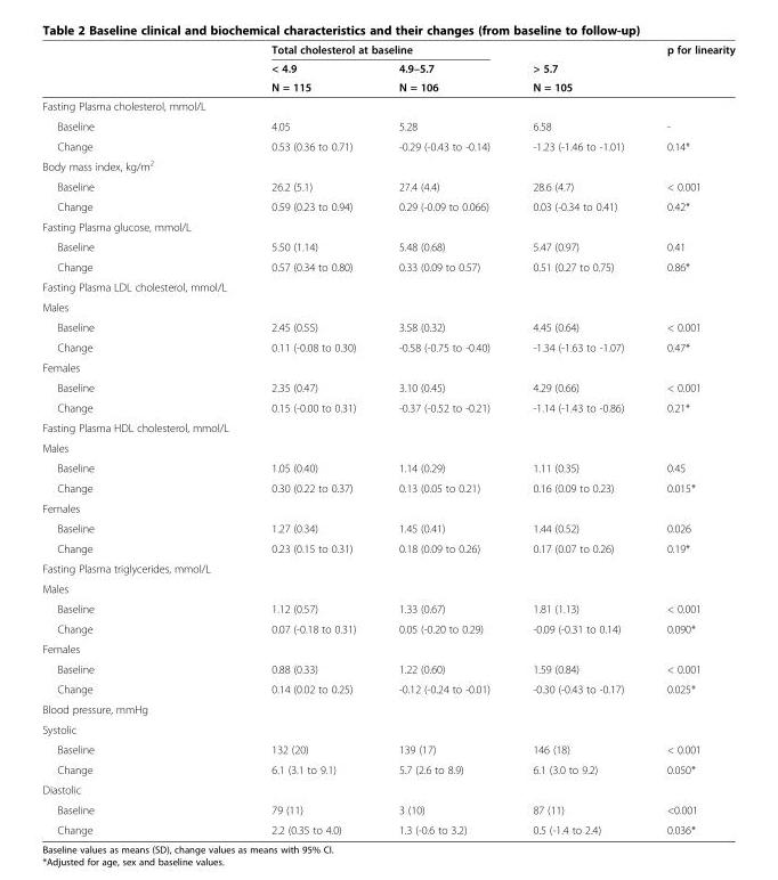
<table><thead><tr><td rowspan="3"></td><td colspan="2">Total cholesterol at baseline</td><td rowspan="3">&gt; 5.7 N = 105</td><td rowspan="3">p for linearity</td></tr><tr><td rowspan="2">&lt; 4.9 N = 115</td><td rowspan="2">4.9–5.7 N = 106</td></tr><tr></tr></thead><tbody><tr><td colspan="5">Fasting Plasma cholesterol, mmol/L</td></tr><tr><td>Baseline</td><td>4.05</td><td>5.28</td><td>6.58</td><td>-</td></tr><tr><td>Change</td><td>0.53 (0.36 to 0.71)</td><td>-0.29 (-0.43 to -0.14)</td><td>-1.23 (-1.46 to -1.01)</td><td>0.14*</td></tr><tr><td colspan="5">Body mass index, kg/m<sup>2</sup></td></tr><tr><td>Baseline</td><td>26.2 (5.1)</td><td>27.4 (4.4)</td><td>28.6 (4.7)</td><td>&lt; 0.001</td></tr><tr><td>Change</td><td>0.59 (0.23 to 0.94)</td><td>0.29 (-0.09 to 0.066)</td><td>0.03 (-0.34 to 0.41)</td><td>0.42*</td></tr><tr><td colspan="5">Fasting Plasma glucose, mmol/L</td></tr><tr><td>Baseline</td><td>5.50 (1.14)</td><td>5.48 (0.68)</td><td>5.47 (0.97)</td><td>0.41</td></tr><tr><td>Change</td><td>0.57 (0.34 to 0.80)</td><td>0.33 (0.09 to 0.57)</td><td>0.51 (0.27 to 0.75)</td><td>0.86*</td></tr><tr><td colspan="5">Fasting Plasma LDL cholesterol, mmol/L</td></tr><tr><td colspan="5">Males</td></tr><tr><td>Baseline</td><td>2.45 (0.55)</td><td>3.58 (0.32)</td><td>4.45 (0.64)</td><td>&lt; 0.001</td></tr><tr><td>Change</td><td>0.11 (-0.08 to 0.30)</td><td>-0.58 (-0.75 to -0.40)</td><td>-1.34 (-1.63 to -1.07)</td><td>0.47*</td></tr><tr><td colspan="5">Females</td></tr><tr><td>Baseline</td><td>2.35 (0.47)</td><td>3.10 (0.45)</td><td>4.29 (0.66)</td><td>&lt; 0.001</td></tr><tr><td>Change</td><td>0.15 (-0.00 to 0.31)</td><td>-0.37 (-0.52 to -0.21)</td><td>-1.14 (-1.43 to -0.86)</td><td>0.21*</td></tr><tr><td colspan="5">Fasting Plasma HDL cholesterol, mmol/L</td></tr><tr><td colspan="5">Males</td></tr><tr><td>Baseline</td><td>1.05 (0.40)</td><td>1.14 (0.29)</td><td>1.11 (0.35)</td><td>0.45</td></tr><tr><td>Change</td><td>0.30 (0.22 to 0.37)</td><td>0.13 (0.05 to 0.21)</td><td>0.16 (0.09 to 0.23)</td><td>0.015*</td></tr><tr><td colspan="5">Females</td></tr><tr><td>Baseline</td><td>1.27 (0.34)</td><td>1.45 (0.41)</td><td>1.44 (0.52)</td><td>0.026</td></tr><tr><td>Change</td><td>0.23 (0.15 to 0.31)</td><td>0.18 (0.09 to 0.26)</td><td>0.17 (0.07 to 0.26)</td><td>0.19*</td></tr><tr><td colspan="5">Fasting Plasma triglycerides, mmol/L</td></tr><tr><td colspan="5">Males</td></tr><tr><td>Baseline</td><td>1.12 (0.57)</td><td>1.33 (0.67)</td><td>1.81 (1.13)</td><td>&lt; 0.001</td></tr><tr><td>Change</td><td>0.07 (-0.18 to 0.31)</td><td>0.05 (-0.20 to 0.29)</td><td>-0.09 (-0.31 to 0.14)</td><td>0.090*</td></tr><tr><td colspan="5">Females</td></tr><tr><td>Baseline</td><td>0.88 (0.33)</td><td>1.22 (0.60)</td><td>1.59 (0.84)</td><td>&lt; 0.001</td></tr><tr><td>Change</td><td>0.14 (0.02 to 0.25)</td><td>-0.12 (-0.24 to -0.01)</td><td>-0.30 (-0.43 to -0.17)</td><td>0.025*</td></tr><tr><td colspan="5">Blood pressure, mmHg</td></tr><tr><td colspan="5">Systolic</td></tr><tr><td>Baseline</td><td>132 (20)</td><td>139 (17)</td><td>146 (18)</td><td>&lt; 0.001</td></tr><tr><td>Change</td><td>6.1 (3.1 to 9.1)</td><td>5.7 (2.6 to 8.9)</td><td>6.1 (3.0 to 9.2)</td><td>0.050*</td></tr><tr><td colspan="5">Diastolic</td></tr><tr><td>Baseline</td><td>79 (11)</td><td>3 (10)</td><td>87 (11)</td><td>&lt;0.001</td></tr><tr><td>Change</td><td>2.2 (0.35 to 4.0)</td><td>1.3 (-0.6 to 3.2)</td><td>0.5 (-1.4 to 2.4)</td><td>0.036*</td></tr></tbody></table>